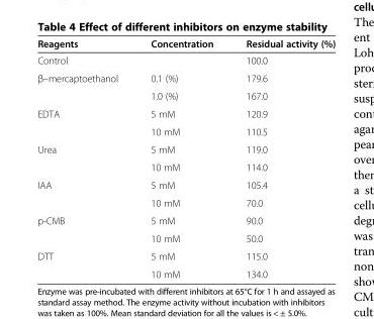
<table><thead><tr><td>Reagents</td><td>Concentration</td><td>Residual activity (%)</td></tr></thead><tbody><tr><td>Control</td><td></td><td>100.0</td></tr><tr><td rowspan="2">β–mercaptoethanol</td><td>0.1 (%)</td><td>179.6</td></tr><tr><td>1.0 (%)</td><td>167.0</td></tr><tr><td rowspan="2">EDTA</td><td>5 mM</td><td>120.9</td></tr><tr><td>10 mM</td><td>110.5</td></tr><tr><td rowspan="2">Urea</td><td>5 mM</td><td>119.0</td></tr><tr><td>10 mM</td><td>114.0</td></tr><tr><td rowspan="2">IAA</td><td>5 mM</td><td>105.4</td></tr><tr><td>10 mM</td><td>70.0</td></tr><tr><td rowspan="2">p-CMB</td><td>5 mM</td><td>90.0</td></tr><tr><td>10 mM</td><td>50.0</td></tr><tr><td rowspan="2">DTT</td><td>5 mM</td><td>115.0</td></tr><tr><td>10 mM</td><td>134.0</td></tr></tbody></table>